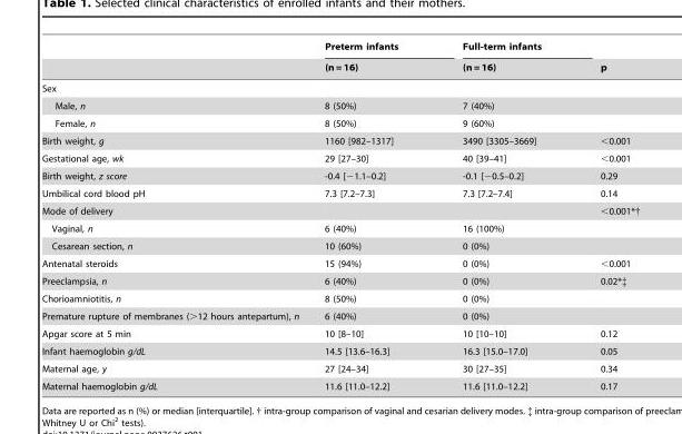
<table><thead><tr><td rowspan="2"></td><td rowspan="2">Preterm infants (n = 16)</td><td rowspan="2">Full-term infants (n = 16)</td><td rowspan="2">p</td></tr><tr></tr></thead><tbody><tr><td colspan="4">Sex</td></tr><tr><td>Male, n</td><td>8 (50%)</td><td>7 (40%)</td><td></td></tr><tr><td>Female, n</td><td>8 (50%)</td><td>9 (60%)</td><td></td></tr><tr><td>Birth weight, g</td><td>1160 [982–1317]</td><td>3490 [3305–3669]</td><td>&lt;0.001</td></tr><tr><td>Gestational age, wk</td><td>29 [27–30]</td><td>40 [39–41]</td><td>&lt;0.001</td></tr><tr><td>Birth weight, z score</td><td>-0.4 [−1.1–0.2]</td><td>-0.1 [−0.5–0.2]</td><td>0.29</td></tr><tr><td>Umbilical cord blood pH</td><td>7.3 [7.2–7.3]</td><td>7.3 [7.2–7.4]</td><td>0.14</td></tr><tr><td>Mode of delivery</td><td></td><td></td><td>&lt;0.001*†</td></tr><tr><td>Vaginal, n</td><td>6 (40%)</td><td>16 (100%)</td><td></td></tr><tr><td>Cesarean section, n</td><td>10 (60%)</td><td>0 (0%)</td><td></td></tr><tr><td>Antenatal steroids</td><td>15 (94%)</td><td>0 (0%)</td><td>&lt;0.001</td></tr><tr><td>Preeclampsia, n</td><td>6 (40%)</td><td>0 (0%)</td><td>0.02*‡</td></tr><tr><td>Chorioamniotitis, n</td><td>8 (50%)</td><td>0 (0%)</td><td></td></tr><tr><td>Premature rupture of membranes (&gt;12 hours antepartum), n</td><td>6 (40%)</td><td>0 (0%)</td><td></td></tr><tr><td>Apgar score at 5 min</td><td>10 [8–10]</td><td>10 [10–10]</td><td>0.12</td></tr><tr><td>Infant haemoglobin g/dL</td><td>14.5 [13.6–16.3]</td><td>16.3 [15.0–17.0]</td><td>0.05</td></tr><tr><td>Maternal age, y</td><td>27 [24–34]</td><td>30 [27–35]</td><td>0.34</td></tr><tr><td>Maternal haemoglobin g/dL</td><td>11.6 [11.0–12.2]</td><td>11.6 [11.0–12.2]</td><td>0.17</td></tr></tbody></table>